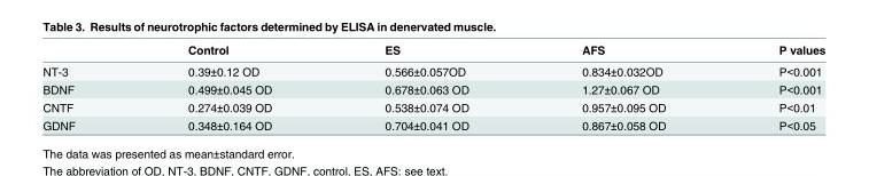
<table><thead><tr><td></td><td>Control</td><td>ES</td><td>AFS</td><td>P values</td></tr></thead><tbody><tr><td>NT-3</td><td>0.39±0.12 OD</td><td>0.566±0.057OD</td><td>0.834±0.032OD</td><td>P&lt;0.001</td></tr><tr><td>BDNF</td><td>0.499±0.045 OD</td><td>0.678±0.063 OD</td><td>1.27±0.067 OD</td><td>P&lt;0.001</td></tr><tr><td>CNTF</td><td>0.274±0.039 OD</td><td>0.538±0.074 OD</td><td>0.957±0.095 OD</td><td>P&lt;0.01</td></tr><tr><td>GDNF</td><td>0.348±0.164 OD</td><td>0.704±0.041 OD</td><td>0.867±0.058 OD</td><td>P&lt;0.05</td></tr></tbody></table>